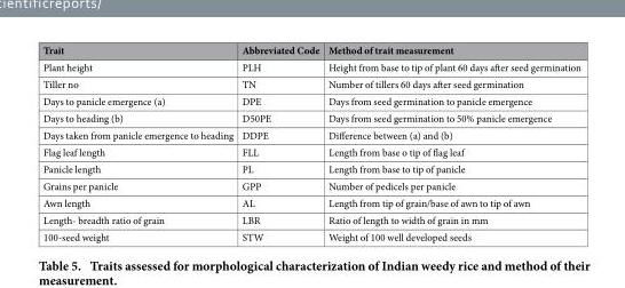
<table><thead><tr><td>Trait</td><td>Abbreviated Code</td><td>Method of trait measurement</td></tr></thead><tbody><tr><td>Plant height</td><td>PLH</td><td>Height from base to tip of plant 60 days after seed germination</td></tr><tr><td>Tiller no</td><td>TN</td><td>Number of tillers 60 days after seed germination</td></tr><tr><td>Days to panicle emergence (a)</td><td>DPE</td><td>Days from seed germination to panicle emergence</td></tr><tr><td>Days to heading (b)</td><td>D50PE</td><td>Days from seed germination to 50% panicle emergence</td></tr><tr><td>Days taken from panicle emergence to heading</td><td>DDPE</td><td>Difference between (a) and (b)</td></tr><tr><td>Flag leaf length</td><td>FLL</td><td>Length from base o tip of flag leaf</td></tr><tr><td>Panicle length</td><td>PL</td><td>Length from base to tip of panicle</td></tr><tr><td>Grains per panicle</td><td>GPP</td><td>Number of pedicels per panicle</td></tr><tr><td>Awn length</td><td>AL</td><td>Length from tip of grain/base of awn to tip of awn</td></tr><tr><td>Length- breadth ratio of grain</td><td>LBR</td><td>Ratio of length to width of grain in mm</td></tr><tr><td>100-seed weight</td><td>STW</td><td>Weight of 100 well developed seeds</td></tr></tbody></table>